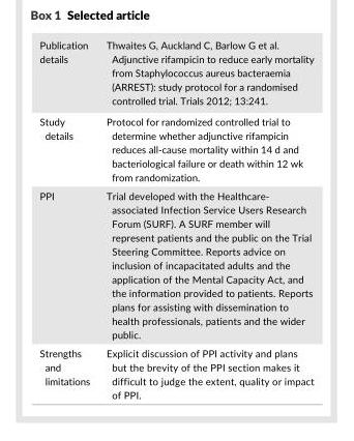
<table><thead><tr><td>Publication details</td><td>Thwaites G, Auckland C, Barlow G et al. Adjunctive rifampicin to reduce early mortality from Staphylococcus aureus bacteraemia (ARREST): study protocol for a randomised controlled trial. Trials 2012; 13:241.</td></tr></thead><tbody><tr><td>Study details</td><td>Protocol for randomized controlled trial to determine whether adjunctive rifampicin reduces all- cause mortality within 14 d and bacteriological failure or death within 12 wk from randomization.</td></tr><tr><td>PPI</td><td>Trial developed with the Healthcare- associated Infection Service Users Research Forum (SURF). A SURF member will represent patients and the public on the Trial Steering Committee. Reports advice on inclusion of incapacitated adults and the application of the Mental Capacity Act, and the information provided to patients. Reports plans for assisting with dissemination to health professionals, patients and the wider public.</td></tr><tr><td>Strengths and limitations</td><td>Explicit discussion of PPI activity and plans but the brevity of the PPI section makes it difficult to judge the extent, quality or impact of PPI.</td></tr></tbody></table>